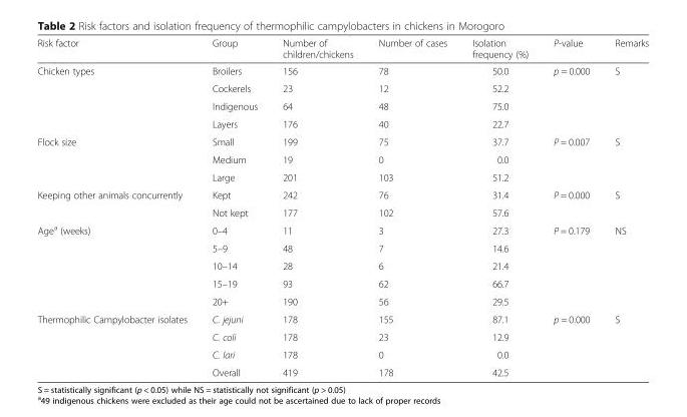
<table><thead><tr><td>Risk factor</td><td>Group</td><td>Number of children/chickens</td><td>Number of cases</td><td>Isolation frequency (%)</td><td>P-value</td><td>Remarks</td></tr></thead><tbody><tr><td rowspan="4">Chicken types</td><td>Broilers</td><td>156</td><td>78</td><td>50.0</td><td rowspan="4">p = 0.000</td><td rowspan="4">S</td></tr><tr><td>Cockerels</td><td>23</td><td>12</td><td>52.2</td></tr><tr><td>Indigenous</td><td>64</td><td>48</td><td>75.0</td></tr><tr><td>Layers</td><td>176</td><td>40</td><td>22.7</td></tr><tr><td rowspan="3">Flock size</td><td>Small</td><td>199</td><td>75</td><td>37.7</td><td rowspan="3">P = 0.007</td><td rowspan="3">S</td></tr><tr><td>Medium</td><td>19</td><td>0</td><td>0.0</td></tr><tr><td>Large</td><td>201</td><td>103</td><td>51.2</td></tr><tr><td rowspan="2">Keeping other animals concurrently</td><td>Kept</td><td>242</td><td>76</td><td>31.4</td><td rowspan="2">P = 0.000</td><td rowspan="2">S</td></tr><tr><td>Not kept</td><td>177</td><td>102</td><td>57.6</td></tr><tr><td rowspan="5">Age<sup>a</sup> (weeks)</td><td>0–4</td><td>11</td><td>3</td><td>27.3</td><td rowspan="5">P = 0.179</td><td rowspan="5">NS</td></tr><tr><td>5–9</td><td>48</td><td>7</td><td>14.6</td></tr><tr><td>10–14</td><td>28</td><td>6</td><td>21.4</td></tr><tr><td>15–19</td><td>93</td><td>62</td><td>66.7</td></tr><tr><td>20+</td><td>190</td><td>56</td><td>29.5</td></tr><tr><td rowspan="4">Thermophilic Campylobacter isolates</td><td>C. jejuni</td><td>178</td><td>155</td><td>87.1</td><td rowspan="3">p = 0.000</td><td rowspan="3">S</td></tr><tr><td>C. coli</td><td>178</td><td>23</td><td>12.9</td></tr><tr><td>C. lari</td><td>178</td><td>0</td><td>0.0</td></tr><tr><td>Overall</td><td>419</td><td>178</td><td>42.5</td><td></td><td></td></tr></tbody></table>